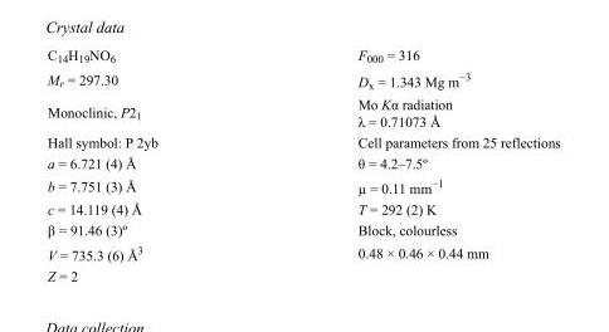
<table><tbody><tr><td>C<sub>14</sub>H<sub>19</sub>NO<sub>6</sub></td><td>F000 = 316</td></tr><tr><td>M<sub>r</sub> = 297.30</td><td>D<sub>x</sub> = 1.343 Mg m<sup>−3</sup></td></tr><tr><td>Monoclinic, P2<sub>1</sub></td><td>Mo Kα radiation λ = 0.71073 Å</td></tr><tr><td>Hall symbol: P 2yb</td><td>Cell parameters from 25 reflections</td></tr><tr><td>a = 6.721 (4) Å</td><td>θ = 4.2–7.5º</td></tr><tr><td>b = 7.751 (3) Å</td><td>µ = 0.11 mm<sup>−1</sup></td></tr><tr><td>c = 14.119 (4) Å</td><td>T = 292 (2) K</td></tr><tr><td>β = 91.46 (3)º</td><td>Block, colourless</td></tr><tr><td>V = 735.3 (6) Å<sup>3</sup></td><td>0.48 × 0.46 × 0.44 mm</td></tr><tr><td>Z = 2</td><td></td></tr></tbody></table>